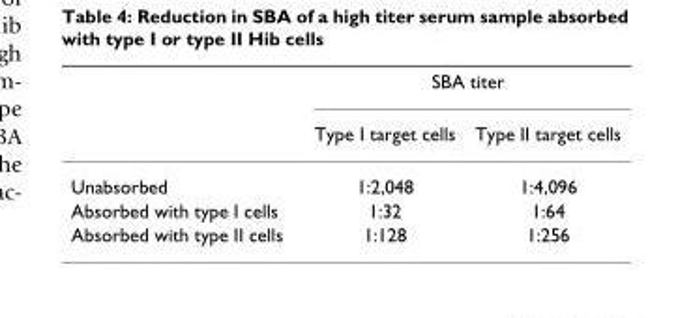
<table><thead><tr><td rowspan="2"></td><td colspan="2">SBA titer</td></tr><tr><td>Type I target cells</td><td>Type II target cells</td></tr></thead><tbody><tr><td>Unabsorbed</td><td>1:2,048</td><td>1:4,096</td></tr><tr><td>Absorbed with type I cells</td><td>1:32</td><td>1:64</td></tr><tr><td>Absorbed with type II cells</td><td>1:128</td><td>1:256</td></tr></tbody></table>